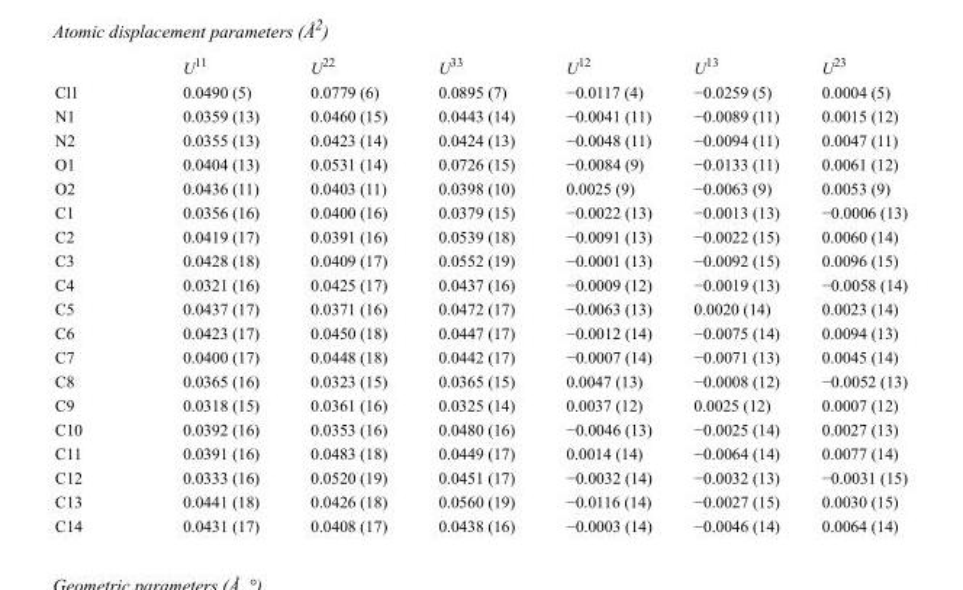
<table><thead><tr><td></td><td>U<sup>11</sup></td><td>U<sup>22</sup></td><td>U<sup>33</sup></td><td>U<sup>12</sup></td><td>U<sup>13</sup></td><td>U<sup>23</sup></td></tr></thead><tbody><tr><td>Cl1</td><td>0.0490 (5)</td><td>0.0779 (6)</td><td>0.0895 (7)</td><td>−0.0117 (4)</td><td>−0.0259 (5)</td><td>0.0004 (5)</td></tr><tr><td>N1</td><td>0.0359 (13)</td><td>0.0460 (15)</td><td>0.0443 (14)</td><td>−0.0041 (11)</td><td>−0.0089 (11)</td><td>0.0015 (12)</td></tr><tr><td>N2</td><td>0.0355 (13)</td><td>0.0423 (14)</td><td>0.0424 (13)</td><td>−0.0048 (11)</td><td>−0.0094 (11)</td><td>0.0047 (11)</td></tr><tr><td>O1</td><td>0.0404 (13)</td><td>0.0531 (14)</td><td>0.0726 (15)</td><td>−0.0084 (9)</td><td>−0.0133 (11)</td><td>0.0061 (12)</td></tr><tr><td>O2</td><td>0.0436 (11)</td><td>0.0403 (11)</td><td>0.0398 (10)</td><td>0.0025 (9)</td><td>−0.0063 (9)</td><td>0.0053 (9)</td></tr><tr><td>C1</td><td>0.0356 (16)</td><td>0.0400 (16)</td><td>0.0379 (15)</td><td>−0.0022 (13)</td><td>−0.0013 (13)</td><td>−0.0006 (13)</td></tr><tr><td>C2</td><td>0.0419 (17)</td><td>0.0391 (16)</td><td>0.0539 (18)</td><td>−0.0091 (13)</td><td>−0.0022 (15)</td><td>0.0060 (14)</td></tr><tr><td>C3</td><td>0.0428 (18)</td><td>0.0409 (17)</td><td>0.0552 (19)</td><td>−0.0001 (13)</td><td>−0.0092 (15)</td><td>0.0096 (15)</td></tr><tr><td>C4</td><td>0.0321 (16)</td><td>0.0425 (17)</td><td>0.0437 (16)</td><td>−0.0009 (12)</td><td>−0.0019 (13)</td><td>−0.0058 (14)</td></tr><tr><td>C5</td><td>0.0437 (17)</td><td>0.0371 (16)</td><td>0.0472 (17)</td><td>−0.0063 (13)</td><td>0.0020 (14)</td><td>0.0023 (14)</td></tr><tr><td>C6</td><td>0.0423 (17)</td><td>0.0450 (18)</td><td>0.0447 (17)</td><td>−0.0012 (14)</td><td>−0.0075 (14)</td><td>0.0094 (13)</td></tr><tr><td>C7</td><td>0.0400 (17)</td><td>0.0448 (18)</td><td>0.0442 (17)</td><td>−0.0007 (14)</td><td>−0.0071 (13)</td><td>0.0045 (14)</td></tr><tr><td>C8</td><td>0.0365 (16)</td><td>0.0323 (15)</td><td>0.0365 (15)</td><td>0.0047 (13)</td><td>−0.0008 (12)</td><td>−0.0052 (13)</td></tr><tr><td>C9</td><td>0.0318 (15)</td><td>0.0361 (16)</td><td>0.0325 (14)</td><td>0.0037 (12)</td><td>0.0025 (12)</td><td>0.0007 (12)</td></tr><tr><td>C10</td><td>0.0392 (16)</td><td>0.0353 (16)</td><td>0.0480 (16)</td><td>−0.0046 (13)</td><td>−0.0025 (14)</td><td>0.0027 (13)</td></tr><tr><td>C11</td><td>0.0391 (16)</td><td>0.0483 (18)</td><td>0.0449 (17)</td><td>0.0014 (14)</td><td>−0.0064 (14)</td><td>0.0077 (14)</td></tr><tr><td>C12</td><td>0.0333 (16)</td><td>0.0520 (19)</td><td>0.0451 (17)</td><td>−0.0032 (14)</td><td>−0.0032 (13)</td><td>−0.0031 (15)</td></tr><tr><td>C13</td><td>0.0441 (18)</td><td>0.0426 (18)</td><td>0.0560 (19)</td><td>−0.0116 (14)</td><td>−0.0027 (15)</td><td>0.0030 (15)</td></tr><tr><td>C14</td><td>0.0431 (17)</td><td>0.0408 (17)</td><td>0.0438 (16)</td><td>−0.0003 (14)</td><td>−0.0046 (14)</td><td>0.0064 (14)</td></tr></tbody></table>